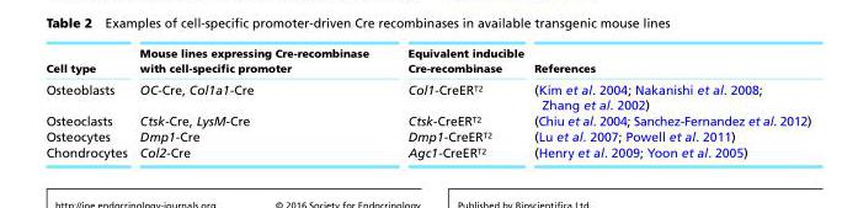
<table><thead><tr><td>Cell type</td><td>Mouse lines expressing Cre-recombinase with cell-specific promoter</td><td>Equivalent inducible Cre-recombinase</td><td>References</td></tr></thead><tbody><tr><td>Osteoblasts</td><td>OC-Cre, Col1a1-Cre</td><td>Col1-CreER<sup>T2</sup></td><td>(Kim et al. 2004; Nakanishi et al. 2008; Zhang et al. 2002)</td></tr><tr><td>Osteoclasts</td><td>Ctsk-Cre, LysM-Cre</td><td>Ctsk-CreER<sup>T2</sup></td><td>(Chiu et al. 2004; Sanchez-Fernandez et al. 2012)</td></tr><tr><td>Osteocytes</td><td>Dmp1-Cre</td><td>Dmp1-CreER<sup>T2</sup></td><td>(Lu et al. 2007; Powell et al. 2011)</td></tr><tr><td>Chondrocytes</td><td>Col2-Cre</td><td>Agc1-CreER<sup>T2</sup></td><td>(Henry et al. 2009; Yoon et al. 2005)</td></tr></tbody></table>